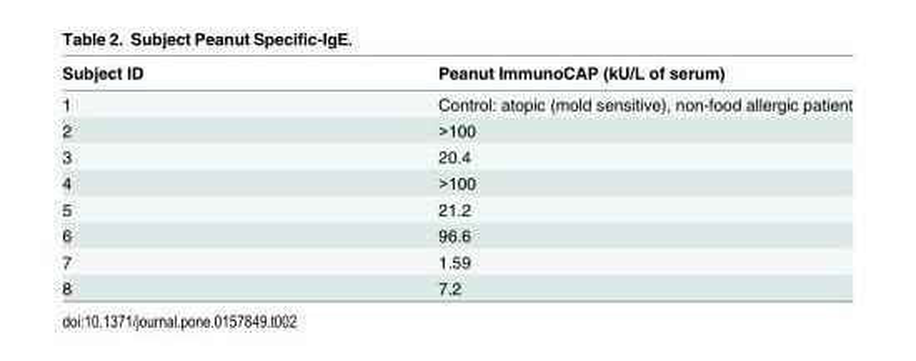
<table><thead><tr><td>Subject ID</td><td>Peanut ImmunoCAP (kU/L of serum)</td></tr></thead><tbody><tr><td>1</td><td>Control: atopic (mold sensitive), non-food allergic patient</td></tr><tr><td>2</td><td>&gt;100</td></tr><tr><td>3</td><td>20.4</td></tr><tr><td>4</td><td>&gt;100</td></tr><tr><td>5</td><td>21.2</td></tr><tr><td>6</td><td>96.6</td></tr><tr><td>7</td><td>1.59</td></tr><tr><td>8</td><td>7.2</td></tr></tbody></table>